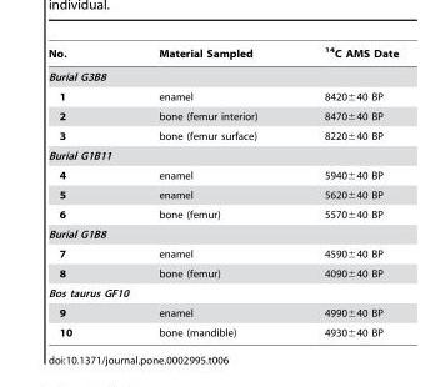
<table><thead><tr><td>No.</td><td>Material Sampled</td><td><sup>14</sup>C AMS Date</td></tr></thead><tbody><tr><td colspan="3">Burial G3B8</td></tr><tr><td>1</td><td>enamel</td><td>8420±40 BP</td></tr><tr><td>2</td><td>bone (femur interior)</td><td>8470±40 BP</td></tr><tr><td>3</td><td>bone (femur surface)</td><td>8220±40 BP</td></tr><tr><td colspan="3">Burial G1B11</td></tr><tr><td>4</td><td>enamel</td><td>5940±40 BP</td></tr><tr><td>5</td><td>enamel</td><td>5620±40 BP</td></tr><tr><td>6</td><td>bone (femur)</td><td>5570±40 BP</td></tr><tr><td colspan="3">Burial G1B8</td></tr><tr><td>7</td><td>enamel</td><td>4590±40 BP</td></tr><tr><td>8</td><td>bone (femur)</td><td>4090±40 BP</td></tr><tr><td colspan="3">Bos taurus GF10</td></tr><tr><td>9</td><td>enamel</td><td>4990±40 BP</td></tr><tr><td>10</td><td>bone (mandible)</td><td>4930±40 BP</td></tr></tbody></table>